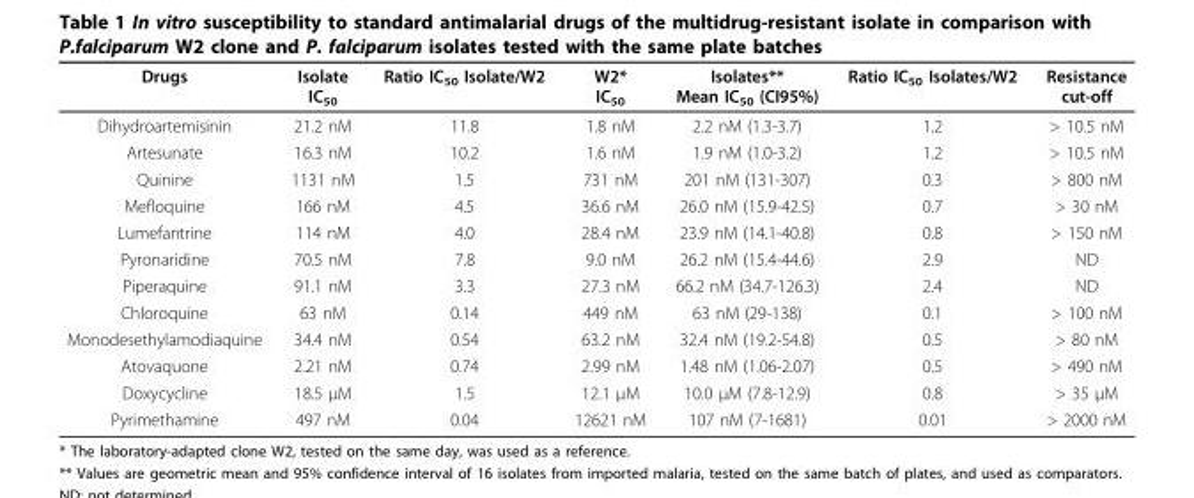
<table><thead><tr><td>Drugs</td><td>Isolate IC<sub>50</sub></td><td>Ratio IC<sub>50</sub> Isolate/W2</td><td>W2* IC<sub>50</sub></td><td>Isolates** Mean IC<sub>50</sub> (CI95%)</td><td>Ratio IC<sub>50</sub> Isolates/W2</td><td>Resistance cut-off</td></tr></thead><tbody><tr><td>Dihydroartemisinin</td><td>21.2 nM</td><td>11.8</td><td>1.8 nM</td><td>2.2 nM (1.3-3.7)</td><td>1.2</td><td>&gt; 10.5 nM</td></tr><tr><td>Artesunate</td><td>16.3 nM</td><td>10.2</td><td>1.6 nM</td><td>1.9 nM (1.0-3.2)</td><td>1.2</td><td>&gt; 10.5 nM</td></tr><tr><td>Quinine</td><td>1131 nM</td><td>1.5</td><td>731 nM</td><td>201 nM (131-307)</td><td>0.3</td><td>&gt; 800 nM</td></tr><tr><td>Mefloquine</td><td>166 nM</td><td>4.5</td><td>36.6 nM</td><td>26.0 nM (15.9-42.5)</td><td>0.7</td><td>&gt; 30 nM</td></tr><tr><td>Lumefantrine</td><td>114 nM</td><td>4.0</td><td>28.4 nM</td><td>23.9 nM (14.1-40.8)</td><td>0.8</td><td>&gt; 150 nM</td></tr><tr><td>Pyronaridine</td><td>70.5 nM</td><td>7.8</td><td>9.0 nM</td><td>26.2 nM (15.4-44.6)</td><td>2.9</td><td>ND</td></tr><tr><td>Piperaquine</td><td>91.1 nM</td><td>3.3</td><td>27.3 nM</td><td>66.2 nM (34.7-126.3)</td><td>2.4</td><td>ND</td></tr><tr><td>Chloroquine</td><td>63 nM</td><td>0.14</td><td>449 nM</td><td>63 nM (29-138)</td><td>0.1</td><td>&gt; 100 nM</td></tr><tr><td>Monodesethylamodiaquine</td><td>34.4 nM</td><td>0.54</td><td>63.2 nM</td><td>32.4 nM (19.2-54.8)</td><td>0.5</td><td>&gt; 80 nM</td></tr><tr><td>Atovaquone</td><td>2.21 nM</td><td>0.74</td><td>2.99 nM</td><td>1.48 nM (1.06-2.07)</td><td>0.5</td><td>&gt; 490 nM</td></tr><tr><td>Doxycycline</td><td>18.5 μM</td><td>1.5</td><td>12.1 μM</td><td>10.0 μM (7.8-12.9)</td><td>0.8</td><td>&gt; 35 μM</td></tr><tr><td>Pyrimethamine</td><td>497 nM</td><td>0.04</td><td>12621 nM</td><td>107 nM (7-1681)</td><td>0.01</td><td>&gt; 2000 nM</td></tr></tbody></table>